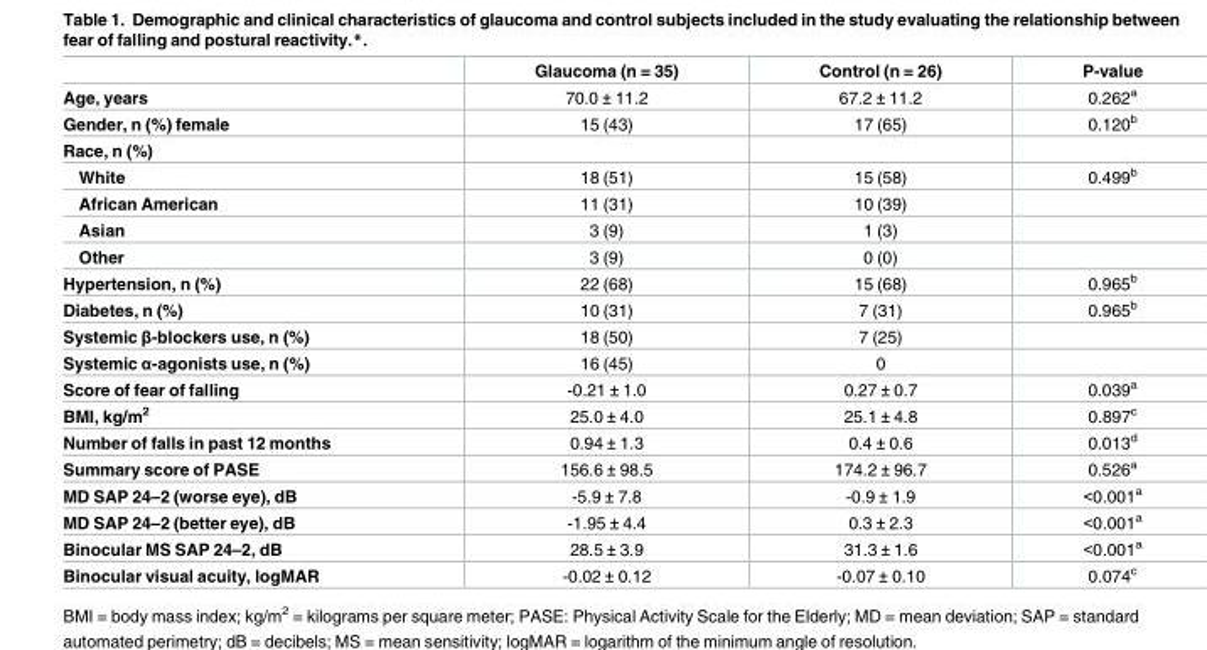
<table><thead><tr><td></td><td>Glaucoma (n = 35)</td><td>Control (n = 26)</td><td>P-value</td></tr></thead><tbody><tr><td>Age, years</td><td>70.0 ± 11.2</td><td>67.2 ± 11.2</td><td>0.262<sup>a</sup></td></tr><tr><td>Gender, n (%) female</td><td>15 (43)</td><td>17 (65)</td><td>0.120<sup>b</sup></td></tr><tr><td colspan="4">Race, n (%)</td></tr><tr><td>White</td><td>18 (51)</td><td>15 (58)</td><td>0.499<sup>b</sup></td></tr><tr><td>African American</td><td>11 (31)</td><td>10 (39)</td><td></td></tr><tr><td>Asian</td><td>3 (9)</td><td>1 (3)</td><td></td></tr><tr><td>Other</td><td>3 (9)</td><td>0 (0)</td><td></td></tr><tr><td>Hypertension, n (%)</td><td>22 (68)</td><td>15 (68)</td><td>0.965<sup>b</sup></td></tr><tr><td>Diabetes, n (%)</td><td>10 (31)</td><td>7 (31)</td><td>0.965<sup>b</sup></td></tr><tr><td>Systemic β-blockers use, n (%)</td><td>18 (50)</td><td>7 (25)</td><td></td></tr><tr><td>Systemic α-agonists use, n (%)</td><td>16 (45)</td><td>0</td><td></td></tr><tr><td>Score of fear of falling</td><td>-0.21 ± 1.0</td><td>0.27 ± 0.7</td><td>0.039<sup>a</sup></td></tr><tr><td>BMI, kg/m<sup>2</sup></td><td>25.0 ± 4.0</td><td>25.1 ± 4.8</td><td>0.897<sup>c</sup></td></tr><tr><td>Number of falls in past 12 months</td><td>0.94 ± 1.3</td><td>0.4 ± 0.6</td><td>0.013<sup>d</sup></td></tr><tr><td>Summary score of PASE</td><td>156.6 ± 98.5</td><td>174.2 ± 96.7</td><td>0.526<sup>a</sup></td></tr><tr><td>MD SAP 24–2 (worse eye), dB</td><td>-5.9 ± 7.8</td><td>-0.9 ± 1.9</td><td>&lt;0.001<sup>a</sup></td></tr><tr><td>MD SAP 24–2 (better eye), dB</td><td>-1.95 ± 4.4</td><td>0.3 ± 2.3</td><td>&lt;0.001<sup>a</sup></td></tr><tr><td>Binocular MS SAP 24–2, dB</td><td>28.5 ± 3.9</td><td>31.3 ± 1.6</td><td>&lt;0.001<sup>a</sup></td></tr><tr><td>Binocular visual acuity, logMAR</td><td>-0.02 ± 0.12</td><td>-0.07 ± 0.10</td><td>0.074<sup>c</sup></td></tr></tbody></table>